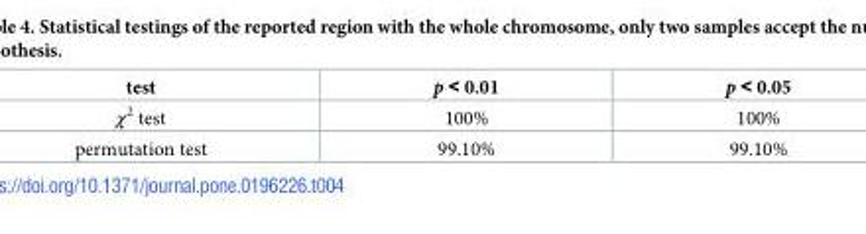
<table><thead><tr><td>test</td><td>p &lt; 0.01</td><td>p &lt; 0.05</td></tr></thead><tbody><tr><td>χ<sup>2</sup> test</td><td>100%</td><td>100%</td></tr><tr><td>permutation test</td><td>99.10%</td><td>99.10%</td></tr></tbody></table>